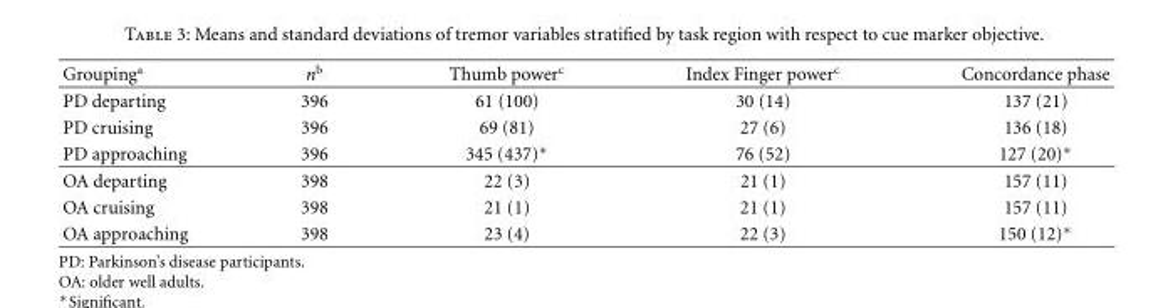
<table><thead><tr><td>Grouping<sup>a</sup></td><td>n<sup>b</sup></td><td>Thumb power<sup>c</sup></td><td>Index Finger power<sup>c</sup></td><td>Concordance phase</td></tr></thead><tbody><tr><td>PD departing</td><td>396</td><td>61 (100)</td><td>30 (14)</td><td>137 (21)</td></tr><tr><td>PD cruising</td><td>396</td><td>69 (81)</td><td>27 (6)</td><td>136 (18)</td></tr><tr><td>PD approaching</td><td>396</td><td>345 (437)∗</td><td>76 (52)</td><td>127 (20)∗</td></tr><tr><td>OA departing</td><td>398</td><td>22 (3)</td><td>21 (1)</td><td>157 (11)</td></tr><tr><td>OA cruising</td><td>398</td><td>21 (1)</td><td>21 (1)</td><td>157 (11)</td></tr><tr><td>OA approaching</td><td>398</td><td>23 (4)</td><td>22 (3)</td><td>150 (12)∗</td></tr></tbody></table>